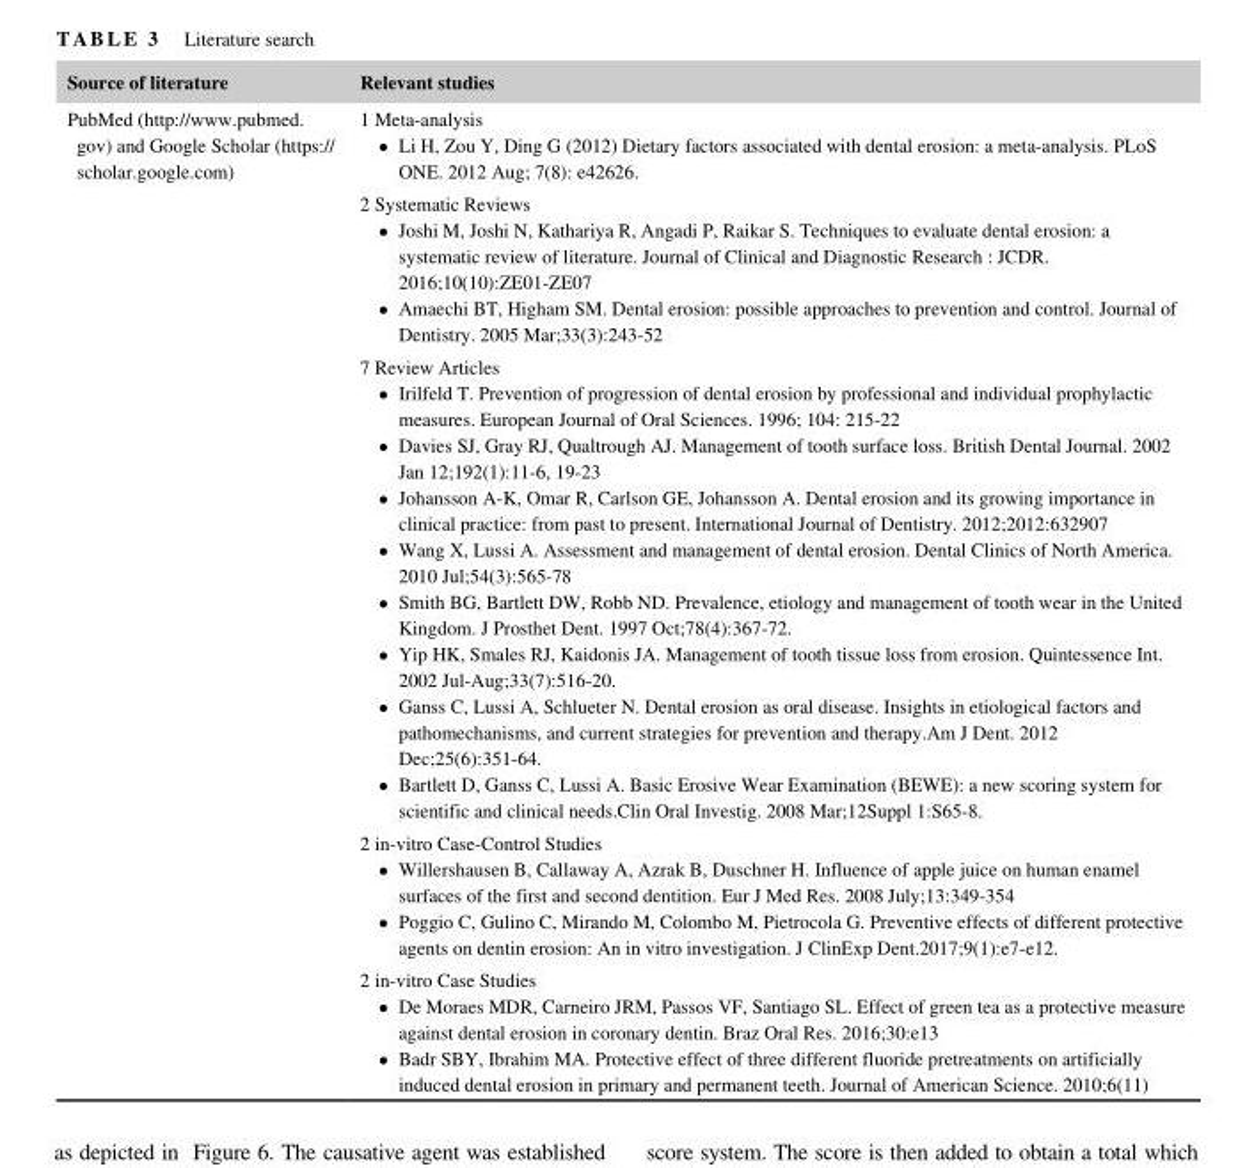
<table><thead><tr><td>Source of literature</td><td>Relevant studies</td></tr></thead><tbody><tr><td rowspan="5">PubMed (http://www.pubmed. gov) and Google Scholar (https:// scholar.google.com)</td><td>1 Meta- analysis • Li H, Zou Y, Ding G (2012) Dietary factors associated with dental erosion: a meta-analysis. PLoS ONE. 2012 Aug; 7(8): e42626.</td></tr><tr><td>2 Systematic Reviews • Joshi M, Joshi N, Kathariya R, Angadi P, Raikar S. Techniques to evaluate dental erosion: a systematic review of literature. Journal of Clinical and Diagnostic Research : JCDR. 2016;10(10):ZE01-ZE07 • Amaechi BT, Higham SM. Dental erosion: possible approaches to prevention and control. Journal of Dentistry. 2005 Mar;33(3):243-52</td></tr><tr><td>7 Review Articles • Irilfeld T. Prevention of progression of dental erosion by professional and individual prophylactic measures. European Journal of Oral Sciences. 1996; 104: 215-22 • Davies SJ, Gray RJ, Qualtrough AJ. Management of tooth surface loss. British Dental Journal. 2002 Jan 12;192(1):11-6, 19-23 • Johansson A-K, Omar R, Carlson GE, Johansson A. Dental erosion and its growing importance in clinical practice: from past to present. International Journal of Dentistry. 2012;2012:632907 • Wang X, Lussi A. Assessment and management of dental erosion. Dental Clinics of North America. 2010 Jul;54(3):565-78 • Smith BG, Bartlett DW, Robb ND. Prevalence, etiology and management of tooth wear in the United Kingdom. J Prosthet Dent. 1997 Oct;78(4):367-72. • Yip HK, Smales RJ, Kaidonis JA. Management of tooth tissue loss from erosion. Quintessence Int. 2002 Jul-Aug;33(7):516-20. • Ganss C, Lussi A, Schlueter N. Dental erosion as oral disease. Insights in etiological factors and pathomechanisms, and current strategies for prevention and therapy.Am J Dent. 2012 Dec;25(6):351-64. • Bartlett D, Ganss C, Lussi A. Basic Erosive Wear Examination (BEWE): a new scoring system for scientific and clinical needs.Clin Oral Investig. 2008 Mar;12Suppl 1:S65-8.</td></tr><tr><td>2 in- vitro Case- Control Studies • Willershausen B, Callaway A, Azrak B, Duschner H. Influence of apple juice on human enamel surfaces of the first and second dentition. Eur J Med Res. 2008 July;13:349-354 • Poggio C, Gulino C, Mirando M, Colombo M, Pietrocola G. Preventive effects of different protective agents on dentin erosion: An in vitro investigation. J ClinExp Dent.2017;9(1):e7-e12.</td></tr><tr><td>2 in- vitro Case Studies • De Moraes MDR, Carneiro JRM, Passos VF, Santiago SL. Effect of green tea as a protective measure against dental erosion in coronary dentin. Braz Oral Res. 2016;30:e13 • Badr SBY, Ibrahim MA. Protective effect of three different fluoride pretreatments on artificially induced dental erosion in primary and permanent teeth. Journal of American Science. 2010;6(11)</td></tr></tbody></table>